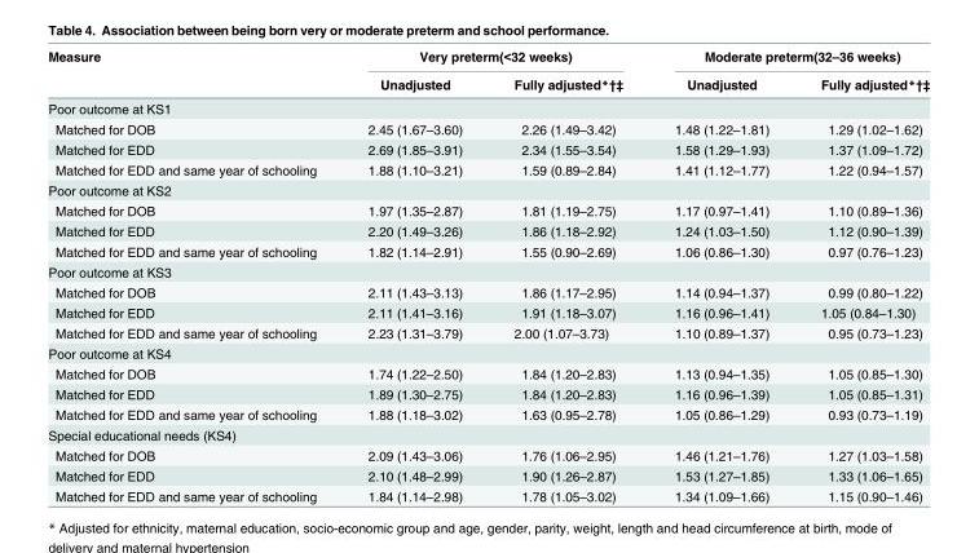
<table><thead><tr><td rowspan="2">Measure</td><td colspan="2">Very preterm(&lt;32 weeks)</td><td colspan="2">Moderate preterm(32–36 weeks)</td></tr><tr><td>Unadjusted</td><td>Fully adjusted*†‡</td><td>Unadjusted</td><td>Fully adjusted*†‡</td></tr></thead><tbody><tr><td colspan="5">Poor outcome at KS1</td></tr><tr><td>Matched for DOB</td><td>2.45 (1.67–3.60)</td><td>2.26 (1.49–3.42)</td><td>1.48 (1.22–1.81)</td><td>1.29 (1.02–1.62)</td></tr><tr><td>Matched for EDD</td><td>2.69 (1.85–3.91)</td><td>2.34 (1.55–3.54)</td><td>1.58 (1.29–1.93)</td><td>1.37 (1.09–1.72)</td></tr><tr><td>Matched for EDD and same year of schooling</td><td>1.88 (1.10–3.21)</td><td>1.59 (0.89–2.84)</td><td>1.41 (1.12–1.77)</td><td>1.22 (0.94–1.57)</td></tr><tr><td colspan="5">Poor outcome at KS2</td></tr><tr><td>Matched for DOB</td><td>1.97 (1.35–2.87)</td><td>1.81 (1.19–2.75)</td><td>1.17 (0.97–1.41)</td><td>1.10 (0.89–1.36)</td></tr><tr><td>Matched for EDD</td><td>2.20 (1.49–3.26)</td><td>1.86 (1.18–2.92)</td><td>1.24 (1.03–1.50)</td><td>1.12 (0.90–1.39)</td></tr><tr><td>Matched for EDD and same year of schooling</td><td>1.82 (1.14–2.91)</td><td>1.55 (0.90–2.69)</td><td>1.06 (0.86–1.30)</td><td>0.97 (0.76–1.23)</td></tr><tr><td colspan="5">Poor outcome at KS3</td></tr><tr><td>Matched for DOB</td><td>2.11 (1.43–3.13)</td><td>1.86 (1.17–2.95)</td><td>1.14 (0.94–1.37)</td><td>0.99 (0.80–1.22)</td></tr><tr><td>Matched for EDD</td><td>2.11 (1.41–3.16)</td><td>1.91 (1.18–3.07)</td><td>1.16 (0.96–1.41)</td><td>1.05 (0.84–1.30)</td></tr><tr><td>Matched for EDD and same year of schooling</td><td>2.23 (1.31–3.79)</td><td>2.00 (1.07–3.73)</td><td>1.10 (0.89–1.37)</td><td>0.95 (0.73–1.23)</td></tr><tr><td colspan="5">Poor outcome at KS4</td></tr><tr><td>Matched for DOB</td><td>1.74 (1.22–2.50)</td><td>1.84 (1.20–2.83)</td><td>1.13 (0.94–1.35)</td><td>1.05 (0.85–1.30)</td></tr><tr><td>Matched for EDD</td><td>1.89 (1.30–2.75)</td><td>1.84 (1.20–2.83)</td><td>1.16 (0.96–1.39)</td><td>1.05 (0.85–1.31)</td></tr><tr><td>Matched for EDD and same year of schooling</td><td>1.88 (1.18–3.02)</td><td>1.63 (0.95–2.78)</td><td>1.05 (0.86–1.29)</td><td>0.93 (0.73–1.19)</td></tr><tr><td colspan="5">Special educational needs (KS4)</td></tr><tr><td>Matched for DOB</td><td>2.09 (1.43–3.06)</td><td>1.76 (1.06–2.95)</td><td>1.46 (1.21–1.76)</td><td>1.27 (1.03–1.58)</td></tr><tr><td>Matched for EDD</td><td>2.10 (1.48–2.99)</td><td>1.90 (1.26–2.87)</td><td>1.53 (1.27–1.85)</td><td>1.33 (1.06–1.65)</td></tr><tr><td>Matched for EDD and same year of schooling</td><td>1.84 (1.14–2.98)</td><td>1.78 (1.05–3.02)</td><td>1.34 (1.09–1.66)</td><td>1.15 (0.90–1.46)</td></tr></tbody></table>